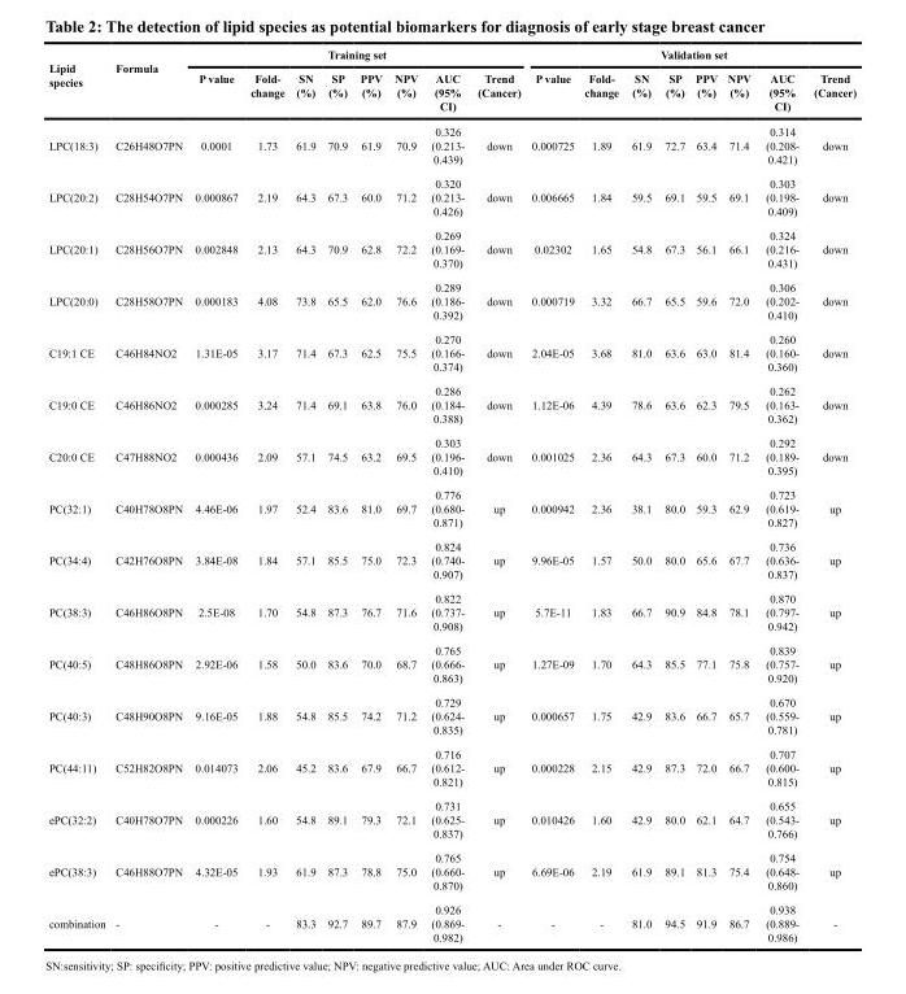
<table><thead><tr><td rowspan="2">Lipid species</td><td rowspan="2">Formula</td><td colspan="8">Training set</td><td colspan="8">Validation set</td></tr><tr><td>P value</td><td>Fold- change</td><td>SN (%)</td><td>SP (%)</td><td>PPV (%)</td><td>NPV (%)</td><td>AUC (95% CI)</td><td>Trend (Cancer)</td><td>P value</td><td>Fold- change</td><td>SN (%)</td><td>SP (%)</td><td>PPV (%)</td><td>NPV (%)</td><td>AUC (95% CI)</td><td>Trend (Cancer)</td></tr></thead><tbody><tr><td>LPC(18:3)</td><td>C26H48O7PN</td><td>0.0001</td><td>1.73</td><td>61.9</td><td>70.9</td><td>61.9</td><td>70.9</td><td>0.326 (0.213- 0.439)</td><td>down</td><td>0.000725</td><td>1.89</td><td>61.9</td><td>72.7</td><td>63.4</td><td>71.4</td><td>0.314 (0.208- 0.421)</td><td>down</td></tr><tr><td>LPC(20:2)</td><td>C28H54O7PN</td><td>0.000867</td><td>2.19</td><td>64.3</td><td>67.3</td><td>60.0</td><td>71.2</td><td>0.320 (0.213- 0.426)</td><td>down</td><td>0.006665</td><td>1.84</td><td>59.5</td><td>69.1</td><td>59.5</td><td>69.1</td><td>0.303 (0.198- 0.409)</td><td>down</td></tr><tr><td>LPC(20:1)</td><td>C28H56O7PN</td><td>0.002848</td><td>2.13</td><td>64.3</td><td>70.9</td><td>62.8</td><td>72.2</td><td>0.269 (0.169- 0.370)</td><td>down</td><td>0.02302</td><td>1.65</td><td>54.8</td><td>67.3</td><td>56.1</td><td>66.1</td><td>0.324 (0.216- 0.431)</td><td>down</td></tr><tr><td>LPC(20:0)</td><td>C28H58O7PN</td><td>0.000183</td><td>4.08</td><td>73.8</td><td>65.5</td><td>62.0</td><td>76.6</td><td>0.289 (0.186- 0.392)</td><td>down</td><td>0.000719</td><td>3.32</td><td>66.7</td><td>65.5</td><td>59.6</td><td>72.0</td><td>0.306 (0.202- 0.410)</td><td>down</td></tr><tr><td>C19:1 CE</td><td>C46H84NO2</td><td>1.31E-05</td><td>3.17</td><td>71.4</td><td>67.3</td><td>62.5</td><td>75.5</td><td>0.270 (0.166- 0.374)</td><td>down</td><td>2.04E-05</td><td>3.68</td><td>81.0</td><td>63.6</td><td>63.0</td><td>81.4</td><td>0.260 (0.160- 0.360)</td><td>down</td></tr><tr><td>C19:0 CE</td><td>C46H86NO2</td><td>0.000285</td><td>3.24</td><td>71.4</td><td>69.1</td><td>63.8</td><td>76.0</td><td>0.286 (0.184- 0.388)</td><td>down</td><td>1.12E-06</td><td>4.39</td><td>78.6</td><td>63.6</td><td>62.3</td><td>79.5</td><td>0.262 (0.163- 0.362)</td><td>down</td></tr><tr><td>C20:0 CE</td><td>C47H88NO2</td><td>0.000436</td><td>2.09</td><td>57.1</td><td>74.5</td><td>63.2</td><td>69.5</td><td>0.303 (0.196- 0.410)</td><td>down</td><td>0.001025</td><td>2.36</td><td>64.3</td><td>67.3</td><td>60.0</td><td>71.2</td><td>0.292 (0.189- 0.395)</td><td>down</td></tr><tr><td>PC(32:1)</td><td>C40H78O8PN</td><td>4.46E-06</td><td>1.97</td><td>52.4</td><td>83.6</td><td>81.0</td><td>69.7</td><td>0.776 (0.680- 0.871)</td><td>up</td><td>0.000942</td><td>2.36</td><td>38.1</td><td>80.0</td><td>59.3</td><td>62.9</td><td>0.723 (0.619- 0.827)</td><td>up</td></tr><tr><td>PC(34:4)</td><td>C42H76O8PN</td><td>3.84E-08</td><td>1.84</td><td>57.1</td><td>85.5</td><td>75.0</td><td>72.3</td><td>0.824 (0.740- 0.907)</td><td>up</td><td>9.96E-05</td><td>1.57</td><td>50.0</td><td>80.0</td><td>65.6</td><td>67.7</td><td>0.736 (0.636- 0.837)</td><td>up</td></tr><tr><td>PC(38:3)</td><td>C46H86O8PN</td><td>2.5E-08</td><td>1.70</td><td>54.8</td><td>87.3</td><td>76.7</td><td>71.6</td><td>0.822 (0.737- 0.908)</td><td>up</td><td>5.7E-11</td><td>1.83</td><td>66.7</td><td>90.9</td><td>84.8</td><td>78.1</td><td>0.870 (0.797- 0.942)</td><td>up</td></tr><tr><td>PC(40:5)</td><td>C48H86O8PN</td><td>2.92E-06</td><td>1.58</td><td>50.0</td><td>83.6</td><td>70.0</td><td>68.7</td><td>0.765 (0.666- 0.863)</td><td>up</td><td>1.27E-09</td><td>1.70</td><td>64.3</td><td>85.5</td><td>77.1</td><td>75.8</td><td>0.839 (0.757- 0.920)</td><td>up</td></tr><tr><td>PC(40:3)</td><td>C48H90O8PN</td><td>9.16E-05</td><td>1.88</td><td>54.8</td><td>85.5</td><td>74.2</td><td>71.2</td><td>0.729 (0.624- 0.835)</td><td>up</td><td>0.000657</td><td>1.75</td><td>42.9</td><td>83.6</td><td>66.7</td><td>65.7</td><td>0.670 (0.559- 0.781)</td><td>up</td></tr><tr><td>PC(44:11)</td><td>C52H82O8PN</td><td>0.014073</td><td>2.06</td><td>45.2</td><td>83.6</td><td>67.9</td><td>66.7</td><td>0.716 (0.612- 0.821)</td><td>up</td><td>0.000228</td><td>2.15</td><td>42.9</td><td>87.3</td><td>72.0</td><td>66.7</td><td>0.707 (0.600- 0.815)</td><td>up</td></tr><tr><td>ePC(32:2)</td><td>C40H78O7PN</td><td>0.000226</td><td>1.60</td><td>54.8</td><td>89.1</td><td>79.3</td><td>72.1</td><td>0.731 (0.625- 0.837)</td><td>up</td><td>0.010426</td><td>1.60</td><td>42.9</td><td>80.0</td><td>62.1</td><td>64.7</td><td>0.655 (0.543- 0.766)</td><td>up</td></tr><tr><td>ePC(38:3)</td><td>C46H88O7PN</td><td>4.32E-05</td><td>1.93</td><td>61.9</td><td>87.3</td><td>78.8</td><td>75.0</td><td>0.765 (0.660- 0.870)</td><td>up</td><td>6.69E-06</td><td>2.19</td><td>61.9</td><td>89.1</td><td>81.3</td><td>75.4</td><td>0.754 (0.648- 0.860)</td><td>up</td></tr><tr><td>combination</td><td>-</td><td>-</td><td>-</td><td>83.3</td><td>92.7</td><td>89.7</td><td>87.9</td><td>0.926 (0.869- 0.982)</td><td>-</td><td>-</td><td>-</td><td>81.0</td><td>94.5</td><td>91.9</td><td>86.7</td><td>0.938 (0.889- 0.986)</td><td>-</td></tr></tbody></table>